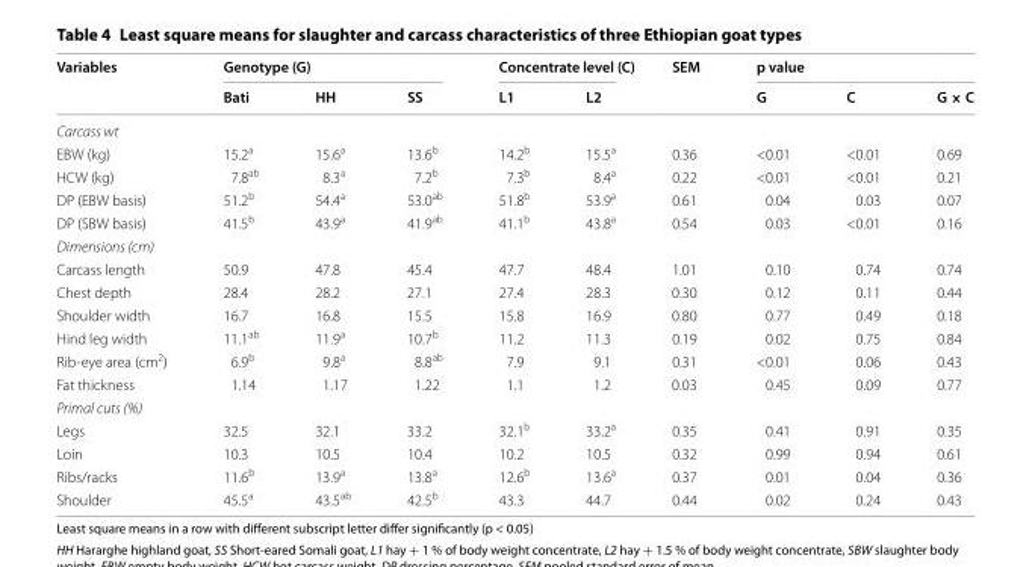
<table><thead><tr><td rowspan="2">Variables</td><td colspan="3">Genotype (G)</td><td colspan="2">Concentrate level (C)</td><td rowspan="2">SEM</td><td colspan="3">p value</td></tr><tr><td>Bati</td><td>HH</td><td>SS</td><td>L1</td><td>L2</td><td>G</td><td>C</td><td>G × C</td></tr></thead><tbody><tr><td colspan="10">Carcass wt</td></tr><tr><td>EBW (kg)</td><td>15.2<sup>a</sup></td><td>15.6<sup>a</sup></td><td>13.6<sup>b</sup></td><td>14.2<sup>b</sup></td><td>15.5<sup>a</sup></td><td>0.36</td><td>&lt;0.01</td><td>&lt;0.01</td><td>0.69</td></tr><tr><td>HCW (kg)</td><td>7.8<sup>ab</sup></td><td>8.3<sup>a</sup></td><td>7.2<sup>b</sup></td><td>7.3<sup>b</sup></td><td>8.4<sup>a</sup></td><td>0.22</td><td>&lt;0.01</td><td>&lt;0.01</td><td>0.21</td></tr><tr><td>DP (EBW basis)</td><td>51.2<sup>b</sup></td><td>54.4<sup>a</sup></td><td>53.0<sup>ab</sup></td><td>51.8<sup>b</sup></td><td>53.9<sup>a</sup></td><td>0.61</td><td>0.04</td><td>0.03</td><td>0.07</td></tr><tr><td>DP (SBW basis)</td><td>41.5<sup>b</sup></td><td>43.9<sup>a</sup></td><td>41.9<sup>ab</sup></td><td>41.1<sup>b</sup></td><td>43.8<sup>a</sup></td><td>0.54</td><td>0.03</td><td>&lt;0.01</td><td>0.16</td></tr><tr><td colspan="10">Dimensions (cm)</td></tr><tr><td>Carcass length</td><td>50.9</td><td>47.8</td><td>45.4</td><td>47.7</td><td>48.4</td><td>1.01</td><td>0.10</td><td>0.74</td><td>0.74</td></tr><tr><td>Chest depth</td><td>28.4</td><td>28.2</td><td>27.1</td><td>27.4</td><td>28.3</td><td>0.30</td><td>0.12</td><td>0.11</td><td>0.44</td></tr><tr><td>Shoulder width</td><td>16.7</td><td>16.8</td><td>15.5</td><td>15.8</td><td>16.9</td><td>0.80</td><td>0.77</td><td>0.49</td><td>0.18</td></tr><tr><td>Hind leg width</td><td>11.1<sup>ab</sup></td><td>11.9<sup>a</sup></td><td>10.7<sup>b</sup></td><td>11.2</td><td>11.3</td><td>0.19</td><td>0.02</td><td>0.75</td><td>0.84</td></tr><tr><td>Rib-eye area (cm<sup>2</sup>)</td><td>6.9<sup>b</sup></td><td>9.8<sup>a</sup></td><td>8.8<sup>ab</sup></td><td>7.9</td><td>9.1</td><td>0.31</td><td>&lt;0.01</td><td>0.06</td><td>0.43</td></tr><tr><td>Fat thickness</td><td>1.14</td><td>1.17</td><td>1.22</td><td>1.1</td><td>1.2</td><td>0.03</td><td>0.45</td><td>0.09</td><td>0.77</td></tr><tr><td colspan="10">Primal cuts (%)</td></tr><tr><td>Legs</td><td>32.5</td><td>32.1</td><td>33.2</td><td>32.1<sup>b</sup></td><td>33.2<sup>a</sup></td><td>0.35</td><td>0.41</td><td>0.91</td><td>0.35</td></tr><tr><td>Loin</td><td>10.3</td><td>10.5</td><td>10.4</td><td>10.2</td><td>10.5</td><td>0.32</td><td>0.99</td><td>0.94</td><td>0.61</td></tr><tr><td>Ribs/racks</td><td>11.6<sup>b</sup></td><td>13.9<sup>a</sup></td><td>13.8<sup>a</sup></td><td>12.6<sup>b</sup></td><td>13.6<sup>a</sup></td><td>0.37</td><td>0.01</td><td>0.04</td><td>0.36</td></tr><tr><td>Shoulder</td><td>45.5<sup>a</sup></td><td>43.5<sup>ab</sup></td><td>42.5<sup>b</sup></td><td>43.3</td><td>44.7</td><td>0.44</td><td>0.02</td><td>0.24</td><td>0.43</td></tr></tbody></table>